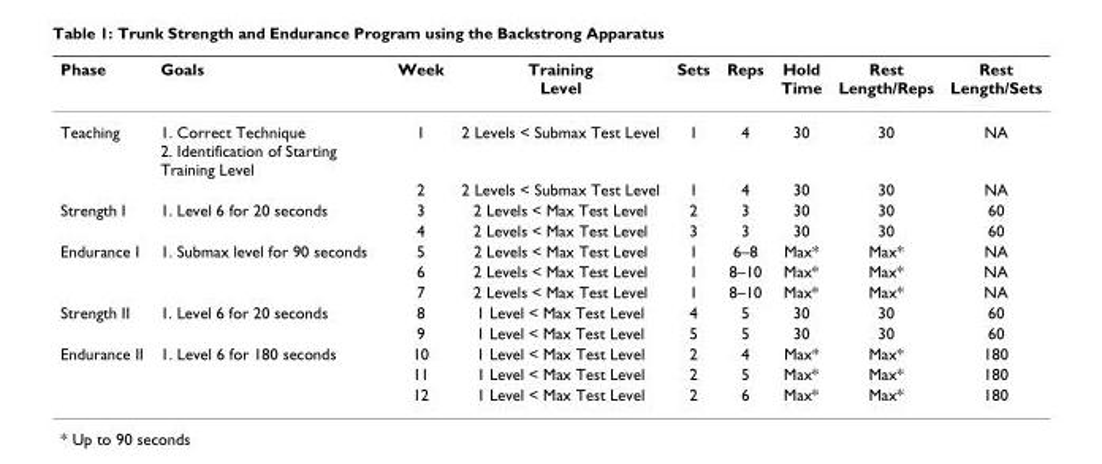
<table><thead><tr><td>Phase</td><td>Goals</td><td>Week</td><td>Training Level</td><td>Sets</td><td>Reps</td><td>Hold Time</td><td>Rest Length/Reps</td><td>Rest Length/Sets</td></tr></thead><tbody><tr><td rowspan="2">Teaching</td><td>1. Correct Technique 2. Identification of Starting Training Level</td><td>1</td><td>2 Levels &lt; Submax Test Level</td><td>1</td><td>4</td><td>30</td><td>30</td><td>NA</td></tr><tr><td></td><td>2</td><td>2 Levels &lt; Submax Test Level</td><td>1</td><td>4</td><td>30</td><td>30</td><td>NA</td></tr><tr><td rowspan="2">Strength I</td><td>1. Level 6 for 20 seconds</td><td>3</td><td>2 Levels &lt; Max Test Level</td><td>2</td><td>3</td><td>30</td><td>30</td><td>60</td></tr><tr><td></td><td>4</td><td>2 Levels &lt; Max Test Level</td><td>3</td><td>3</td><td>30</td><td>30</td><td>60</td></tr><tr><td rowspan="3">Endurance I</td><td>1. Submax level for 90 seconds</td><td>5</td><td>2 Levels &lt; Max Test Level</td><td>1</td><td>6–8</td><td>Max*</td><td>Max*</td><td>NA</td></tr><tr><td></td><td>6</td><td>2 Levels &lt; Max Test Level</td><td>1</td><td>8–10</td><td>Max*</td><td>Max*</td><td>NA</td></tr><tr><td></td><td>7</td><td>2 Levels &lt; Max Test Level</td><td>1</td><td>8–10</td><td>Max*</td><td>Max*</td><td>NA</td></tr><tr><td rowspan="2">Strength II</td><td>1. Level 6 for 20 seconds</td><td>8</td><td>1 Level &lt; Max Test Level</td><td>4</td><td>5</td><td>30</td><td>30</td><td>60</td></tr><tr><td></td><td>9</td><td>1 Level &lt; Max Test Level</td><td>5</td><td>5</td><td>30</td><td>30</td><td>60</td></tr><tr><td rowspan="3">Endurance II</td><td>1. Level 6 for 180 seconds</td><td>10</td><td>1 Level &lt; Max Test Level</td><td>2</td><td>4</td><td>Max*</td><td>Max*</td><td>180</td></tr><tr><td></td><td>11</td><td>1 Level &lt; Max Test Level</td><td>2</td><td>5</td><td>Max*</td><td>Max*</td><td>180</td></tr><tr><td></td><td>12</td><td>1 Level &lt; Max Test Level</td><td>2</td><td>6</td><td>Max*</td><td>Max*</td><td>180</td></tr></tbody></table>